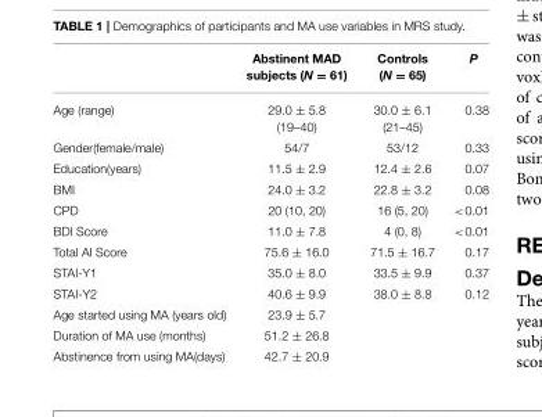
<table><thead><tr><td></td><td>Abstinent MAD subjects (N = 61)</td><td>Controls (N = 65)</td><td>P</td></tr></thead><tbody><tr><td>Age (range)</td><td>29.0 ± 5.8 (19–40)</td><td>30.0 ± 6.1 (21–45)</td><td>0.38</td></tr><tr><td>Gender(female/male)</td><td>54/7</td><td>53/12</td><td>0.33</td></tr><tr><td>Education(years)</td><td>11.5 ± 2.9</td><td>12.4 ± 2.6</td><td>0.07</td></tr><tr><td>BMI</td><td>24.0 ± 3.2</td><td>22.8 ± 3.2</td><td>0.08</td></tr><tr><td>CPD</td><td>20 (10, 20)</td><td>16 (5, 20)</td><td>&lt;0.01</td></tr><tr><td>BDI Score</td><td>11.0 ± 7.8</td><td>4 (0, 8)</td><td>&lt;0.01</td></tr><tr><td>Total AI Score</td><td>75.6 ± 16.0</td><td>71.5 ± 16.7</td><td>0.17</td></tr><tr><td>STAI-Y1</td><td>35.0 ± 8.0</td><td>33.5 ± 9.9</td><td>0.37</td></tr><tr><td>STAI-Y2</td><td>40.6 ± 9.9</td><td>38.0 ± 8.8</td><td>0.12</td></tr><tr><td>Age started using MA (years old)</td><td>23.9 ± 5.7</td><td></td><td></td></tr><tr><td>Duration of MA use (months)</td><td>51.2 ± 26.8</td><td></td><td></td></tr><tr><td>Abstinence from using MA(days)</td><td>42.7 ± 20.9</td><td></td><td></td></tr></tbody></table>